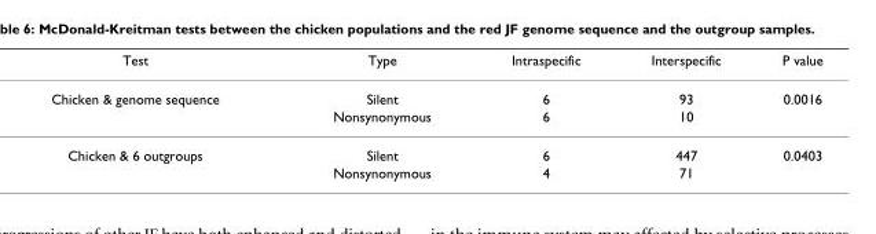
<table><thead><tr><td>Test</td><td>Type</td><td>Intraspecific</td><td>Interspecific</td><td>P value</td></tr></thead><tbody><tr><td rowspan="2">Chicken &amp; genome sequence</td><td>Silent</td><td>6</td><td>93</td><td>0.0016</td></tr><tr><td>Nonsynonymous</td><td>6</td><td>10</td><td></td></tr><tr><td rowspan="2">Chicken &amp; 6 outgroups</td><td>Silent</td><td>6</td><td>447</td><td>0.0403</td></tr><tr><td>Nonsynonymous</td><td>4</td><td>71</td><td></td></tr></tbody></table>